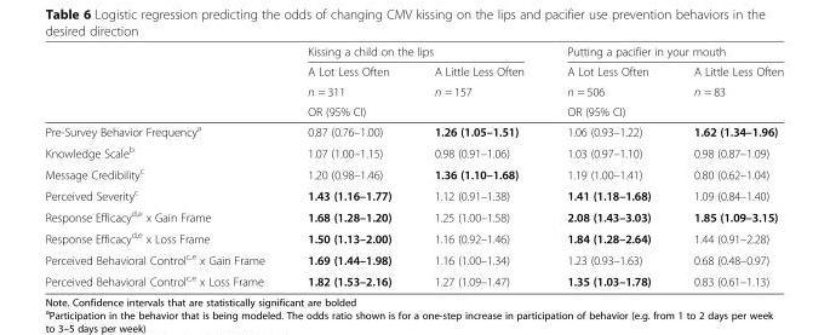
<table><thead><tr><td rowspan="4"></td><td colspan="2">Kissing a child on the lips</td><td colspan="2">Putting a pacifier in your mouth</td></tr><tr><td rowspan="2">A Lot Less Often n = 311</td><td rowspan="2">A Little Less Often n = 157</td><td rowspan="2">A Lot Less Often n = 506</td><td rowspan="2">A Little Less Often n = 83</td></tr><tr></tr><tr><td colspan="2">OR (95% CI)</td><td colspan="2">OR (95% CI)</td></tr></thead><tbody><tr><td>Pre-Survey Behavior Frequency<sup>a</sup></td><td>0.87 (0.76–1.00)</td><td>1.26 (1.05–1.51)</td><td>1.06 (0.93–1.22)</td><td>1.62 (1.34–1.96)</td></tr><tr><td>Knowledge Scale<sup>b</sup></td><td>1.07 (1.00–1.15)</td><td>0.98 (0.91–1.06)</td><td>1.03 (0.97–1.10)</td><td>0.98 (0.87–1.09)</td></tr><tr><td>Message Credibility<sup>c</sup></td><td>1.20 (0.98–1.46)</td><td>1.36 (1.10–1.68)</td><td>1.19 (1.00–1.41)</td><td>0.80 (0.62–1.04)</td></tr><tr><td>Perceived Severity<sup>c</sup></td><td>1.43 (1.16–1.77)</td><td>1.12 (0.91–1.38)</td><td>1.41 (1.18–1.68)</td><td>1.09 (0.84–1.40)</td></tr><tr><td>Response Efficacy<sup>d,e</sup> x Gain Frame</td><td>1.68 (1.28–1.20)</td><td>1.25 (1.00–1.58)</td><td>2.08 (1.43–3.03)</td><td>1.85 (1.09–3.15)</td></tr><tr><td>Response Efficacy<sup>d,e</sup> x Loss Frame</td><td>1.50 (1.13–2.00)</td><td>1.16 (0.92–1.46)</td><td>1.84 (1.28–2.64)</td><td>1.44 (0.91–2.28)</td></tr><tr><td>Perceived Behavioral Control<sup>c,e</sup> x Gain Frame</td><td>1.69 (1.44–1.98)</td><td>1.16 (1.00–1.34)</td><td>1.23 (0.93–1.63)</td><td>0.68 (0.48–0.97)</td></tr><tr><td>Perceived Behavioral Control<sup>c,e</sup> x Loss Frame</td><td>1.82 (1.53–2.16)</td><td>1.27 (1.09–1.47)</td><td>1.35 (1.03–1.78)</td><td>0.83 (0.61–1.13)</td></tr></tbody></table>